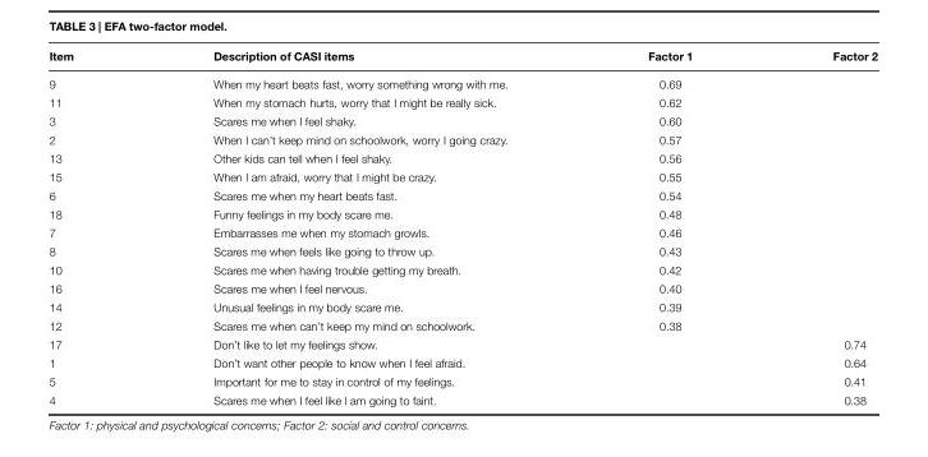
<table><thead><tr><td>Item</td><td>Description of CASI items</td><td>Factor 1</td><td>Factor 2</td></tr></thead><tbody><tr><td>9</td><td>When my heart beats fast, worry something wrong with me.</td><td>0.69</td><td></td></tr><tr><td>11</td><td>When my stomach hurts, worry that I might be really sick.</td><td>0.62</td><td></td></tr><tr><td>3</td><td>Scares me when I feel shaky.</td><td>0.60</td><td></td></tr><tr><td>2</td><td>When I can’t keep mind on schoolwork, worry I going crazy.</td><td>0.57</td><td></td></tr><tr><td>13</td><td>Other kids can tell when I feel shaky.</td><td>0.56</td><td></td></tr><tr><td>15</td><td>When I am afraid, worry that I might be crazy.</td><td>0.55</td><td></td></tr><tr><td>6</td><td>Scares me when my heart beats fast.</td><td>0.54</td><td></td></tr><tr><td>18</td><td>Funny feelings in my body scare me.</td><td>0.48</td><td></td></tr><tr><td>7</td><td>Embarrasses me when my stomach growls.</td><td>0.46</td><td></td></tr><tr><td>8</td><td>Scares me when feels like going to throw up.</td><td>0.43</td><td></td></tr><tr><td>10</td><td>Scares me when having trouble getting my breath.</td><td>0.42</td><td></td></tr><tr><td>16</td><td>Scares me when I feel nervous.</td><td>0.40</td><td></td></tr><tr><td>14</td><td>Unusual feelings in my body scare me.</td><td>0.39</td><td></td></tr><tr><td>12</td><td>Scares me when can’t keep my mind on schoolwork.</td><td>0.38</td><td></td></tr><tr><td>17</td><td>Don’t like to let my feelings show.</td><td></td><td>0.74</td></tr><tr><td>1</td><td>Don’t want other people to know when I feel afraid.</td><td></td><td>0.64</td></tr><tr><td>5</td><td>Important for me to stay in control of my feelings.</td><td></td><td>0.41</td></tr><tr><td>4</td><td>Scares me when I feel like I am going to faint.</td><td></td><td>0.38</td></tr></tbody></table>